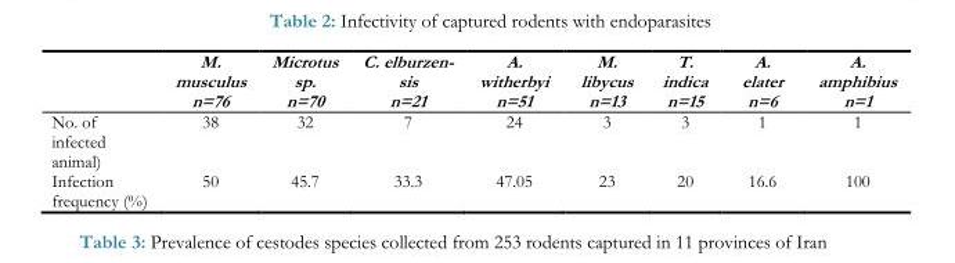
<table><thead><tr><td></td><td>M. musculus n=76</td><td>Microtus sp. n=70</td><td>C. elburzen- sis n=21</td><td>A. witherbyi n=51</td><td>M. libycus n=13</td><td>T. indica n=15</td><td>A. elater n=6</td><td>A. amphibius n=1</td></tr></thead><tbody><tr><td>No. of infected animal)</td><td>38</td><td>32</td><td>7</td><td>24</td><td>3</td><td>3</td><td>1</td><td>1</td></tr><tr><td>Infection frequency (%)</td><td>50</td><td>45.7</td><td>33.3</td><td>47.05</td><td>23</td><td>20</td><td>16.6</td><td>100</td></tr></tbody></table>